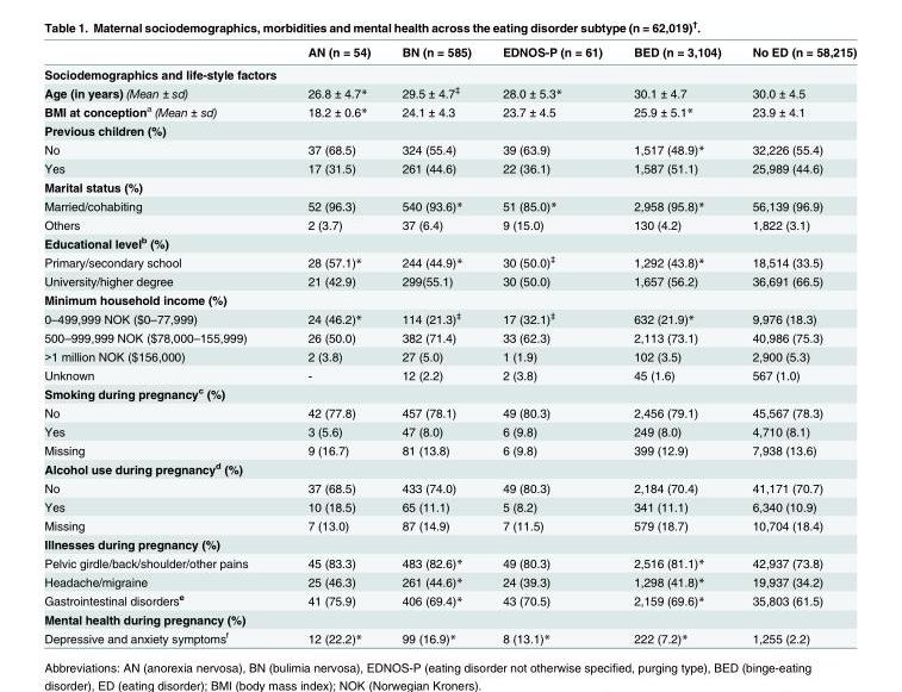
<table><thead><tr><td></td><td>AN (n = 54)</td><td>BN (n = 585)</td><td>EDNOS-P (n = 61)</td><td>BED (n = 3,104)</td><td>No ED (n = 58,215)</td></tr></thead><tbody><tr><td colspan="6">Sociodemographics and life-style factors</td></tr><tr><td>Age (in years) (Mean ± sd)</td><td>26.8 ± 4.7*</td><td>29.5 ± 4.7<sup>‡</sup></td><td>28.0 ± 5.3*</td><td>30.1 ± 4.7</td><td>30.0 ± 4.5</td></tr><tr><td>BMI at conception<sup>a</sup> (Mean ± sd)</td><td>18.2 ± 0.6*</td><td>24.1 ± 4.3</td><td>23.7 ± 4.5</td><td>25.9 ± 5.1*</td><td>23.9 ± 4.1</td></tr><tr><td colspan="6">Previous children (%)</td></tr><tr><td>No</td><td>37 (68.5)</td><td>324 (55.4)</td><td>39 (63.9)</td><td>1,517 (48.9)*</td><td>32,226 (55.4)</td></tr><tr><td>Yes</td><td>17 (31.5)</td><td>261 (44.6)</td><td>22 (36.1)</td><td>1,587 (51.1)</td><td>25,989 (44.6)</td></tr><tr><td colspan="6">Marital status (%)</td></tr><tr><td>Married/cohabiting</td><td>52 (96.3)</td><td>540 (93.6)*</td><td>51 (85.0)*</td><td>2,958 (95.8)*</td><td>56,139 (96.9)</td></tr><tr><td>Others</td><td>2 (3.7)</td><td>37 (6.4)</td><td>9 (15.0)</td><td>130 (4.2)</td><td>1,822 (3.1)</td></tr><tr><td colspan="6">Educational level<sup>b</sup> (%)</td></tr><tr><td>Primary/secondary school</td><td>28 (57.1)*</td><td>244 (44.9)*</td><td>30 (50.0)<sup>‡</sup></td><td>1,292 (43.8)*</td><td>18,514 (33.5)</td></tr><tr><td>University/higher degree</td><td>21 (42.9)</td><td>299(55.1)</td><td>30 (50.0)</td><td>1,657 (56.2)</td><td>36,691 (66.5)</td></tr><tr><td colspan="6">Minimum household income (%)</td></tr><tr><td>0–499,999 NOK ($0–77,999)</td><td>24 (46.2)*</td><td>114 (21.3)<sup>‡</sup></td><td>17 (32.1)<sup>‡</sup></td><td>632 (21.9)*</td><td>9,976 (18.3)</td></tr><tr><td>500–999,999 NOK ($78,000–155,999)</td><td>26 (50.0)</td><td>382 (71.4)</td><td>33 (62.3)</td><td>2,113 (73.1)</td><td>40,986 (75.3)</td></tr><tr><td>&gt;1 million NOK ($156,000)</td><td>2 (3.8)</td><td>27 (5.0)</td><td>1 (1.9)</td><td>102 (3.5)</td><td>2,900 (5.3)</td></tr><tr><td>Unknown</td><td>-</td><td>12 (2.2)</td><td>2 (3.8)</td><td>45 (1.6)</td><td>567 (1.0)</td></tr><tr><td colspan="6">Smoking during pregnancy<sup>c</sup> (%)</td></tr><tr><td>No</td><td>42 (77.8)</td><td>457 (78.1)</td><td>49 (80.3)</td><td>2,456 (79.1)</td><td>45,567 (78.3)</td></tr><tr><td>Yes</td><td>3 (5.6)</td><td>47 (8.0)</td><td>6 (9.8)</td><td>249 (8.0)</td><td>4,710 (8.1)</td></tr><tr><td>Missing</td><td>9 (16.7)</td><td>81 (13.8)</td><td>6 (9.8)</td><td>399 (12.9)</td><td>7,938 (13.6)</td></tr><tr><td colspan="6">Alcohol use during pregnancy<sup>d</sup> (%)</td></tr><tr><td>No</td><td>37 (68.5)</td><td>433 (74.0)</td><td>49 (80.3)</td><td>2,184 (70.4)</td><td>41,171 (70.7)</td></tr><tr><td>Yes</td><td>10 (18.5)</td><td>65 (11.1)</td><td>5 (8.2)</td><td>341 (11.1)</td><td>6,340 (10.9)</td></tr><tr><td>Missing</td><td>7 (13.0)</td><td>87 (14.9)</td><td>7 (11.5)</td><td>579 (18.7)</td><td>10,704 (18.4)</td></tr><tr><td colspan="6">Illnesses during pregnancy (%)</td></tr><tr><td>Pelvic girdle/back/shoulder/other pains</td><td>45 (83.3)</td><td>483 (82.6)*</td><td>49 (80.3)</td><td>2,516 (81.1)*</td><td>42,937 (73.8)</td></tr><tr><td>Headache/migraine</td><td>25 (46.3)</td><td>261 (44.6)*</td><td>24 (39.3)</td><td>1,298 (41.8)*</td><td>19,937 (34.2)</td></tr><tr><td>Gastrointestinal disorders<sup>e</sup></td><td>41 (75.9)</td><td>406 (69.4)*</td><td>43 (70.5)</td><td>2,159 (69.6)*</td><td>35,803 (61.5)</td></tr><tr><td colspan="6">Mental health during pregnancy (%)</td></tr><tr><td>Depressive and anxiety symptoms<sup>f</sup></td><td>12 (22.2)*</td><td>99 (16.9)*</td><td>8 (13.1)*</td><td>222 (7.2)*</td><td>1,255 (2.2)</td></tr></tbody></table>